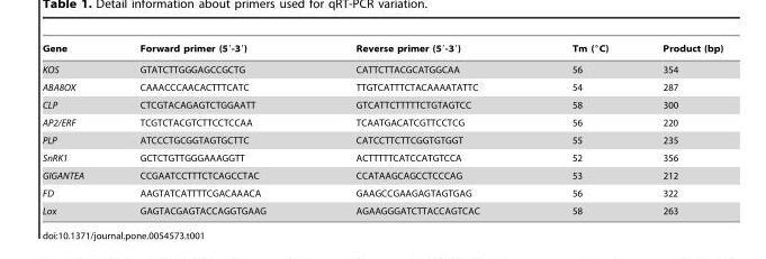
<table><thead><tr><td>Gene</td><td>Forward primer (5′-3′)</td><td>Reverse primer (5′-3′)</td><td>Tm (°C)</td><td>Product (bp)</td></tr></thead><tbody><tr><td>KOS</td><td>GTATCTTGGGAGCCGCTG</td><td>CATTCTTACGCATGGCAA</td><td>56</td><td>354</td></tr><tr><td>ABA8OX</td><td>CAAACCCAACACTTTCATC</td><td>TTGTCATTTCTACAAAATATTC</td><td>54</td><td>287</td></tr><tr><td>CLP</td><td>CTCGTACAGAGTCTGGAATT</td><td>GTCATTCTTTTTCTGTAGTCC</td><td>58</td><td>300</td></tr><tr><td>AP2/ERF</td><td>TCGTCTACGTCTTCCTCCAA</td><td>TCAATGACATCGTTCCTCG</td><td>56</td><td>220</td></tr><tr><td>PLP</td><td>ATCCCTGCGGTAGTGCTTC</td><td>CATCCTTCTTCGGTGTGGT</td><td>55</td><td>235</td></tr><tr><td>SnRK1</td><td>GCTCTGTTGGGAAAGGTT</td><td>ACTTTTTCATCCATGTCCA</td><td>52</td><td>356</td></tr><tr><td>GIGANTEA</td><td>CCGAATCCTTTCTCAGCCTAC</td><td>CCATAAGCAGCCTCCCAG</td><td>53</td><td>212</td></tr><tr><td>FD</td><td>AAGTATCATTTTCGACAAACA</td><td>GAAGCCGAAGAGTAGTGAG</td><td>56</td><td>322</td></tr><tr><td>Lox</td><td>GAGTACGAGTACCAGGTGAAG</td><td>AGAAGGGATCTTACCAGTCAC</td><td>58</td><td>263</td></tr></tbody></table>